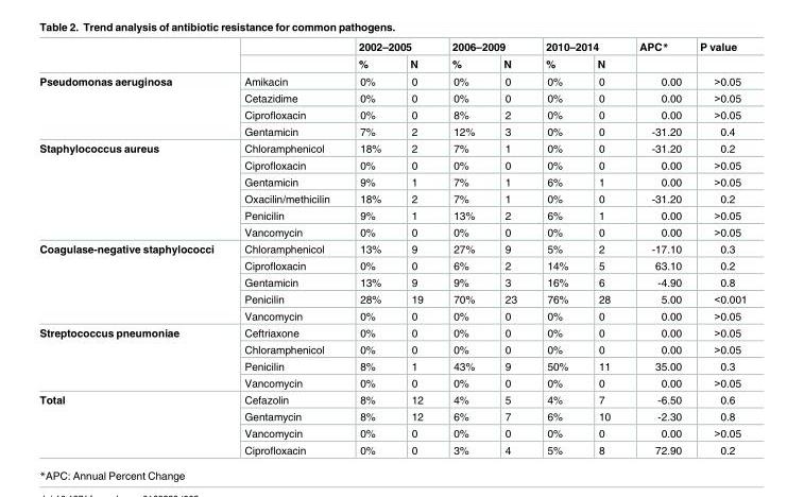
<table><thead><tr><td rowspan="2"></td><td rowspan="2"></td><td colspan="2">2002–2005</td><td colspan="2">2006–2009</td><td colspan="2">2010–2014</td><td rowspan="2">APC*</td><td rowspan="2">P value</td></tr><tr><td>%</td><td>N</td><td>%</td><td>N</td><td>%</td><td>N</td></tr></thead><tbody><tr><td rowspan="4">Pseudomonas aeruginosa</td><td>Amikacin</td><td>0%</td><td>0</td><td>0%</td><td>0</td><td>0%</td><td>0</td><td>0.00</td><td>&gt;0.05</td></tr><tr><td>Cetazidime</td><td>0%</td><td>0</td><td>0%</td><td>0</td><td>0%</td><td>0</td><td>0.00</td><td>&gt;0.05</td></tr><tr><td>Ciprofloxacin</td><td>0%</td><td>0</td><td>8%</td><td>2</td><td>0%</td><td>0</td><td>0.00</td><td>&gt;0.05</td></tr><tr><td>Gentamicin</td><td>7%</td><td>2</td><td>12%</td><td>3</td><td>0%</td><td>0</td><td>-31.20</td><td>0.4</td></tr><tr><td rowspan="6">Staphylococcus aureus</td><td>Chloramphenicol</td><td>18%</td><td>2</td><td>7%</td><td>1</td><td>0%</td><td>0</td><td>-31.20</td><td>0.2</td></tr><tr><td>Ciprofloxacin</td><td>0%</td><td>0</td><td>0%</td><td>0</td><td>0%</td><td>0</td><td>0.00</td><td>&gt;0.05</td></tr><tr><td>Gentamicin</td><td>9%</td><td>1</td><td>7%</td><td>1</td><td>6%</td><td>1</td><td>0.00</td><td>&gt;0.05</td></tr><tr><td>Oxacilin/methicilin</td><td>18%</td><td>2</td><td>7%</td><td>1</td><td>0%</td><td>0</td><td>-31.20</td><td>0.2</td></tr><tr><td>Penicilin</td><td>9%</td><td>1</td><td>13%</td><td>2</td><td>6%</td><td>1</td><td>0.00</td><td>&gt;0.05</td></tr><tr><td>Vancomycin</td><td>0%</td><td>0</td><td>0%</td><td>0</td><td>0%</td><td>0</td><td>0.00</td><td>&gt;0.05</td></tr><tr><td rowspan="5">Coagulase-negative staphylococci</td><td>Chloramphenicol</td><td>13%</td><td>9</td><td>27%</td><td>9</td><td>5%</td><td>2</td><td>-17.10</td><td>0.3</td></tr><tr><td>Ciprofloxacin</td><td>0%</td><td>0</td><td>6%</td><td>2</td><td>14%</td><td>5</td><td>63.10</td><td>0.2</td></tr><tr><td>Gentamicin</td><td>13%</td><td>9</td><td>9%</td><td>3</td><td>16%</td><td>6</td><td>-4.90</td><td>0.8</td></tr><tr><td>Penicilin</td><td>28%</td><td>19</td><td>70%</td><td>23</td><td>76%</td><td>28</td><td>5.00</td><td>&lt;0.001</td></tr><tr><td>Vancomycin</td><td>0%</td><td>0</td><td>0%</td><td>0</td><td>0%</td><td>0</td><td>0.00</td><td>&gt;0.05</td></tr><tr><td rowspan="4">Streptococcus pneumoniae</td><td>Ceftriaxone</td><td>0%</td><td>0</td><td>0%</td><td>0</td><td>0%</td><td>0</td><td>0.00</td><td>&gt;0.05</td></tr><tr><td>Chloramphenicol</td><td>0%</td><td>0</td><td>0%</td><td>0</td><td>0%</td><td>0</td><td>0.00</td><td>&gt;0.05</td></tr><tr><td>Penicilin</td><td>8%</td><td>1</td><td>43%</td><td>9</td><td>50%</td><td>11</td><td>35.00</td><td>0.3</td></tr><tr><td>Vancomycin</td><td>0%</td><td>0</td><td>0%</td><td>0</td><td>0%</td><td>0</td><td>0.00</td><td>&gt;0.05</td></tr><tr><td rowspan="4">Total</td><td>Cefazolin</td><td>8%</td><td>12</td><td>4%</td><td>5</td><td>4%</td><td>7</td><td>-6.50</td><td>0.6</td></tr><tr><td>Gentamycin</td><td>8%</td><td>12</td><td>6%</td><td>7</td><td>6%</td><td>10</td><td>-2.30</td><td>0.8</td></tr><tr><td>Vancomycin</td><td>0%</td><td>0</td><td>0%</td><td>0</td><td>0%</td><td>0</td><td>0.00</td><td>&gt;0.05</td></tr><tr><td>Ciprofloxacin</td><td>0%</td><td>0</td><td>3%</td><td>4</td><td>5%</td><td>8</td><td>72.90</td><td>0.2</td></tr></tbody></table>